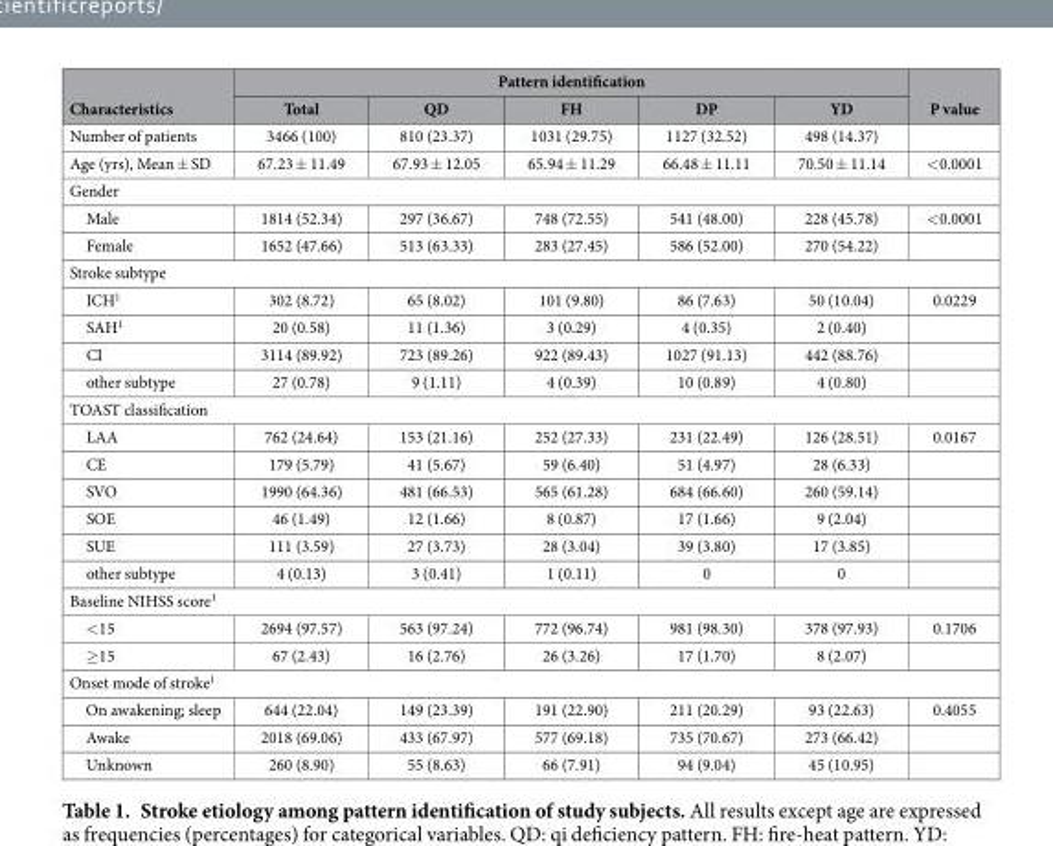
<table><thead><tr><td rowspan="2">Characteristics</td><td colspan="5">Pattern identification</td><td rowspan="2">P value</td></tr><tr><td>Total</td><td>QD</td><td>FH</td><td>DP</td><td>YD</td></tr></thead><tbody><tr><td>Number of patients</td><td>3466 (100)</td><td>810 (23.37)</td><td>1031 (29.75)</td><td>1127 (32.52)</td><td>498 (14.37)</td><td></td></tr><tr><td>Age (yrs), Mean ± SD</td><td>67.23 ± 11.49</td><td>67.93 ± 12.05</td><td>65.94 ± 11.29</td><td>66.48 ± 11.11</td><td>70.50 ± 11.14</td><td>&lt; 0.0001</td></tr><tr><td colspan="7">Gender</td></tr><tr><td>Male</td><td>1814 (52.34)</td><td>297 (36.67)</td><td>748 (72.55)</td><td>541 (48.00)</td><td>228 (45.78)</td><td>&lt; 0.0001</td></tr><tr><td>Female</td><td>1652 (47.66)</td><td>513 (63.33)</td><td>283 (27.45)</td><td>586 (52.00)</td><td>270 (54.22)</td><td></td></tr><tr><td colspan="7">Stroke subtype</td></tr><tr><td>ICH<sup>1</sup></td><td>302 (8.72)</td><td>65 (8.02)</td><td>101 (9.80)</td><td>86 (7.63)</td><td>50 (10.04)</td><td>0.0229</td></tr><tr><td>SAH<sup>1</sup></td><td>20 (0.58)</td><td>11 (1.36)</td><td>3 (0.29)</td><td>4 (0.35)</td><td>2 (0.40)</td><td></td></tr><tr><td>CI</td><td>3114 (89.92)</td><td>723 (89.26)</td><td>922 (89.43)</td><td>1027 (91.13)</td><td>442 (88.76)</td><td></td></tr><tr><td>other subtype</td><td>27 (0.78)</td><td>9 (1.11)</td><td>4 (0.39)</td><td>10 (0.89)</td><td>4 (0.80)</td><td></td></tr><tr><td colspan="7">TOAST classification</td></tr><tr><td>LAA</td><td>762 (24.64)</td><td>153 (21.16)</td><td>252 (27.33)</td><td>231 (22.49)</td><td>126 (28.51)</td><td>0.0167</td></tr><tr><td>CE</td><td>179 (5.79)</td><td>41 (5.67)</td><td>59 (6.40)</td><td>51 (4.97)</td><td>28 (6.33)</td><td></td></tr><tr><td>SVO</td><td>1990 (64.36)</td><td>481 (66.53)</td><td>565 (61.28)</td><td>684 (66.60)</td><td>260 (59.14)</td><td></td></tr><tr><td>SOE</td><td>46 (1.49)</td><td>12 (1.66)</td><td>8 (0.87)</td><td>17 (1.66)</td><td>9 (2.04)</td><td></td></tr><tr><td>SUE</td><td>111 (3.59)</td><td>27 (3.73)</td><td>28 (3.04)</td><td>39 (3.80)</td><td>17 (3.85)</td><td></td></tr><tr><td>other subtype</td><td>4 (0.13)</td><td>3 (0.41)</td><td>1 (0.11)</td><td>0</td><td>0</td><td></td></tr><tr><td colspan="7">Baseline NIHSS score<sup>1</sup></td></tr><tr><td>&lt; 15</td><td>2694 (97.57)</td><td>563 (97.24)</td><td>772 (96.74)</td><td>981 (98.30)</td><td>378 (97.93)</td><td>0.1706</td></tr><tr><td>≥ 15</td><td>67 (2.43)</td><td>16 (2.76)</td><td>26 (3.26)</td><td>17 (1.70)</td><td>8 (2.07)</td><td></td></tr><tr><td colspan="7">Onset mode of stroke<sup>1</sup></td></tr><tr><td>On awakening; sleep</td><td>644 (22.04)</td><td>149 (23.39)</td><td>191 (22.90)</td><td>211 (20.29)</td><td>93 (22.63)</td><td>0.4055</td></tr><tr><td>Awake</td><td>2018 (69.06)</td><td>433 (67.97)</td><td>577 (69.18)</td><td>735 (70.67)</td><td>273 (66.42)</td><td></td></tr><tr><td>Unknown</td><td>260 (8.90)</td><td>55 (8.63)</td><td>66 (7.91)</td><td>94 (9.04)</td><td>45 (10.95)</td><td></td></tr></tbody></table>